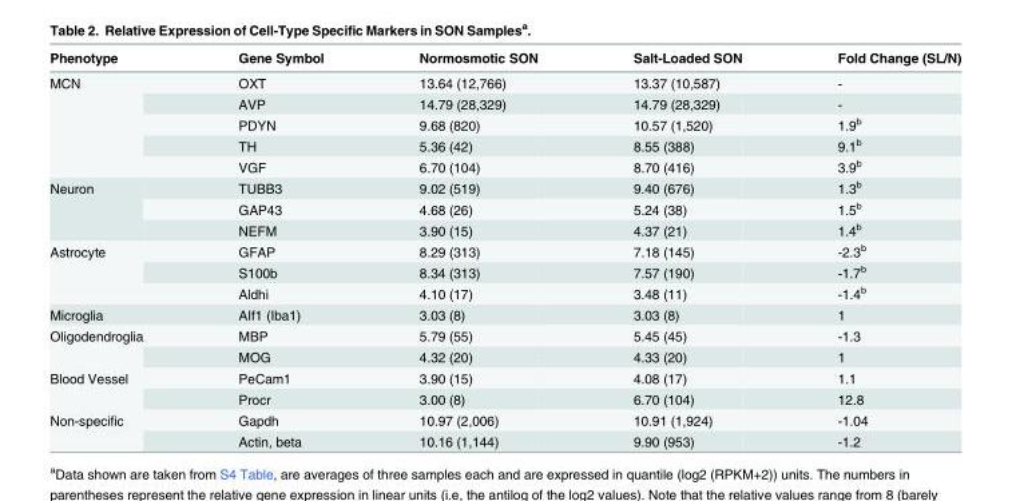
<table><thead><tr><td>Phenotype</td><td>Gene Symbol</td><td>Normosmotic SON</td><td>Salt-Loaded SON</td><td>Fold Change (SL/N)</td></tr></thead><tbody><tr><td rowspan="5">MCN</td><td>OXT</td><td>13.64 (12,766)</td><td>13.37 (10,587)</td><td>-</td></tr><tr><td>AVP</td><td>14.79 (28,329)</td><td>14.79 (28,329)</td><td>-</td></tr><tr><td>PDYN</td><td>9.68 (820)</td><td>10.57 (1,520)</td><td>1.9<sup>b</sup></td></tr><tr><td>TH</td><td>5.36 (42)</td><td>8.55 (388)</td><td>9.1<sup>b</sup></td></tr><tr><td>VGF</td><td>6.70 (104)</td><td>8.70 (416)</td><td>3.9<sup>b</sup></td></tr><tr><td rowspan="3">Neuron</td><td>TUBB3</td><td>9.02 (519)</td><td>9.40 (676)</td><td>1.3<sup>b</sup></td></tr><tr><td>GAP43</td><td>4.68 (26)</td><td>5.24 (38)</td><td>1.5<sup>b</sup></td></tr><tr><td>NEFM</td><td>3.90 (15)</td><td>4.37 (21)</td><td>1.4<sup>b</sup></td></tr><tr><td rowspan="3">Astrocyte</td><td>GFAP</td><td>8.29 (313)</td><td>7.18 (145)</td><td>-2.3<sup>b</sup></td></tr><tr><td>S100b</td><td>8.34 (313)</td><td>7.57 (190)</td><td>-1.7<sup>b</sup></td></tr><tr><td>Aldhi</td><td>4.10 (17)</td><td>3.48 (11)</td><td>-1.4<sup>b</sup></td></tr><tr><td>Microglia</td><td>AIf1 (Iba1)</td><td>3.03 (8)</td><td>3.03 (8)</td><td>1</td></tr><tr><td rowspan="2">Oligodendroglia</td><td>MBP</td><td>5.79 (55)</td><td>5.45 (45)</td><td>-1.3</td></tr><tr><td>MOG</td><td>4.32 (20)</td><td>4.33 (20)</td><td>1</td></tr><tr><td rowspan="2">Blood Vessel</td><td>PeCam1</td><td>3.90 (15)</td><td>4.08 (17)</td><td>1.1</td></tr><tr><td>Procr</td><td>3.00 (8)</td><td>6.70 (104)</td><td>12.8</td></tr><tr><td rowspan="2">Non-specific</td><td>Gapdh</td><td>10.97 (2,006)</td><td>10.91 (1,924)</td><td>-1.04</td></tr><tr><td>Actin, beta</td><td>10.16 (1,144)</td><td>9.90 (953)</td><td>-1.2</td></tr></tbody></table>